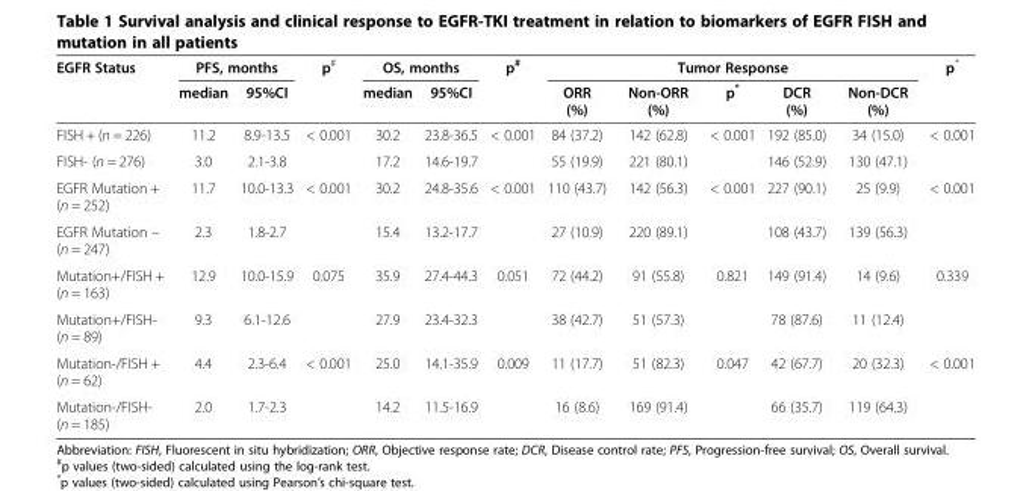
<table><thead><tr><td rowspan="2">EGFR Status</td><td colspan="2">PFS, months</td><td rowspan="2">p<sup>#</sup></td><td colspan="2">OS, months</td><td rowspan="2">p<sup>#</sup></td><td colspan="5">Tumor Response</td><td rowspan="2">p*</td></tr><tr><td>median</td><td>95%CI</td><td>median</td><td>95%CI</td><td>ORR (%)</td><td>Non-ORR (%)</td><td>p*</td><td>DCR (%)</td><td>Non-DCR (%)</td></tr></thead><tbody><tr><td>FISH + (n = 226)</td><td>11.2</td><td>8.9-13.5</td><td rowspan="2">&lt; 0.001</td><td>30.2</td><td>23.8-36.5</td><td rowspan="2">&lt; 0.001</td><td>84 (37.2)</td><td>142 (62.8)</td><td rowspan="2">&lt; 0.001</td><td>192 (85.0)</td><td>34 (15.0)</td><td rowspan="2">&lt; 0.001</td></tr><tr><td>FISH- (n = 276)</td><td>3.0</td><td>2.1-3.8</td><td>17.2</td><td>14.6-19.7</td><td>55 (19.9)</td><td>221 (80.1)</td><td>146 (52.9)</td><td>130 (47.1)</td></tr><tr><td>EGFR Mutation + (n = 252)</td><td>11.7</td><td>10.0-13.3</td><td rowspan="2">&lt; 0.001</td><td>30.2</td><td>24.8-35.6</td><td rowspan="2">&lt; 0.001</td><td>110 (43.7)</td><td>142 (56.3)</td><td rowspan="2">&lt; 0.001</td><td>227 (90.1)</td><td>25 (9.9)</td><td rowspan="2">&lt; 0.001</td></tr><tr><td>EGFR Mutation – (n = 247)</td><td>2.3</td><td>1.8-2.7</td><td>15.4</td><td>13.2-17.7</td><td>27 (10.9)</td><td>220 (89.1)</td><td>108 (43.7)</td><td>139 (56.3)</td></tr><tr><td>Mutation+/FISH + (n = 163)</td><td>12.9</td><td>10.0-15.9</td><td rowspan="2">0.075</td><td>35.9</td><td>27.4-44.3</td><td rowspan="2">0.051</td><td>72 (44.2)</td><td>91 (55.8)</td><td rowspan="2">0.821</td><td>149 (91.4)</td><td>14 (9.6)</td><td rowspan="2">0.339</td></tr><tr><td>Mutation+/FISH- (n = 89)</td><td>9.3</td><td>6.1-12.6</td><td>27.9</td><td>23.4-32.3</td><td>38 (42.7)</td><td>51 (57.3)</td><td>78 (87.6)</td><td>11 (12.4)</td></tr><tr><td>Mutation-/FISH + (n = 62)</td><td>4.4</td><td>2.3-6.4</td><td rowspan="2">&lt; 0.001</td><td>25.0</td><td>14.1-35.9</td><td rowspan="2">0.009</td><td>11 (17.7)</td><td>51 (82.3)</td><td rowspan="2">0.047</td><td>42 (67.7)</td><td>20 (32.3)</td><td rowspan="2">&lt; 0.001</td></tr><tr><td>Mutation-/FISH- (n = 185)</td><td>2.0</td><td>1.7-2.3</td><td>14.2</td><td>11.5-16.9</td><td>16 (8.6)</td><td>169 (91.4)</td><td>66 (35.7)</td><td>119 (64.3)</td></tr></tbody></table>